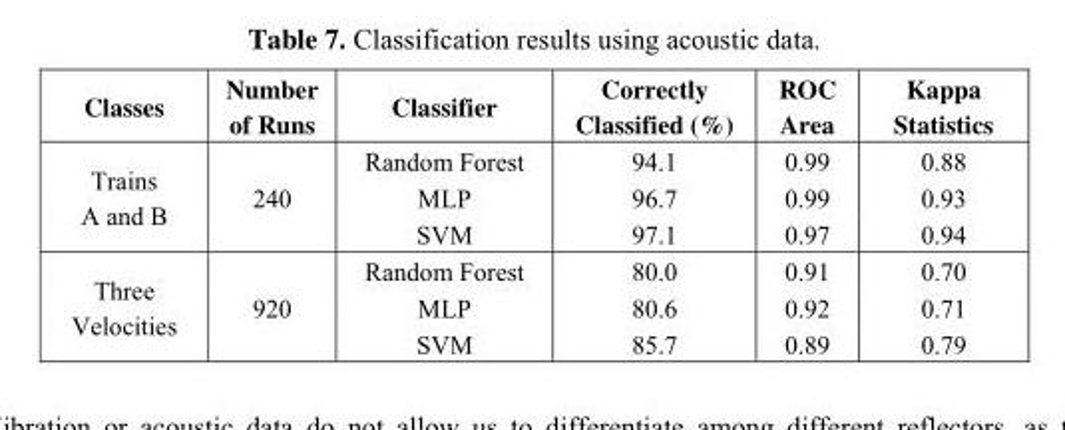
<table><thead><tr><td>Classes</td><td>Number of Runs</td><td>Classifier</td><td>Correctly Classified (%)</td><td>ROC Area</td><td>Kappa Statistics</td></tr></thead><tbody><tr><td rowspan="3">Trains A and B</td><td rowspan="3">240</td><td>Random Forest</td><td>94.1</td><td>0.99</td><td>0.88</td></tr><tr><td>MLP</td><td>96.7</td><td>0.99</td><td>0.93</td></tr><tr><td>SVM</td><td>97.1</td><td>0.97</td><td>0.94</td></tr><tr><td rowspan="3">Three Velocities</td><td rowspan="3">920</td><td>Random Forest</td><td>80.0</td><td>0.91</td><td>0.70</td></tr><tr><td>MLP</td><td>80.6</td><td>0.92</td><td>0.71</td></tr><tr><td>SVM</td><td>85.7</td><td>0.89</td><td>0.79</td></tr></tbody></table>